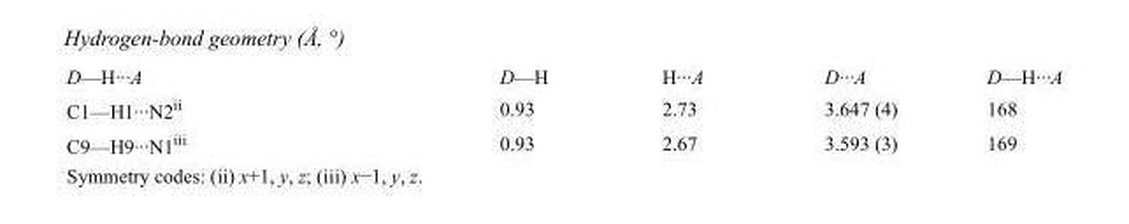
<table><tbody><tr><td>D—H···A</td><td>D—H</td><td>H···A</td><td>D···A</td><td>D—H···A</td></tr><tr><td>C1—H1···N2<sup>ii</sup></td><td>0.93</td><td>2.73</td><td>3.647 (4)</td><td>168</td></tr><tr><td>C9—H9···N1<sup>iii</sup></td><td>0.93</td><td>2.67</td><td>3.593 (3)</td><td>169</td></tr></tbody></table>